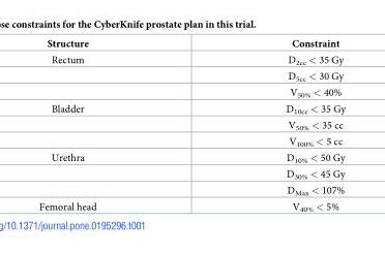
<table><thead><tr><td>Structure</td><td>Constraint</td></tr></thead><tbody><tr><td rowspan="3">Rectum</td><td>D<sub>2cc</sub> &lt; 35 Gy</td></tr><tr><td>D<sub>5cc</sub> &lt; 30 Gy</td></tr><tr><td>V<sub>50%</sub> &lt; 40%</td></tr><tr><td rowspan="3">Bladder</td><td>D<sub>10cc</sub> &lt; 35 Gy</td></tr><tr><td>V<sub>50%</sub> &lt; 35 cc</td></tr><tr><td>V<sub>100%</sub> &lt; 5 cc</td></tr><tr><td rowspan="3">Urethra</td><td>D<sub>10%</sub> &lt; 50 Gy</td></tr><tr><td>D<sub>30%</sub> &lt; 45 Gy</td></tr><tr><td>D<sub>Max</sub> &lt; 107%</td></tr><tr><td>Femoral head</td><td>V<sub>40%</sub> &lt; 5%</td></tr></tbody></table>